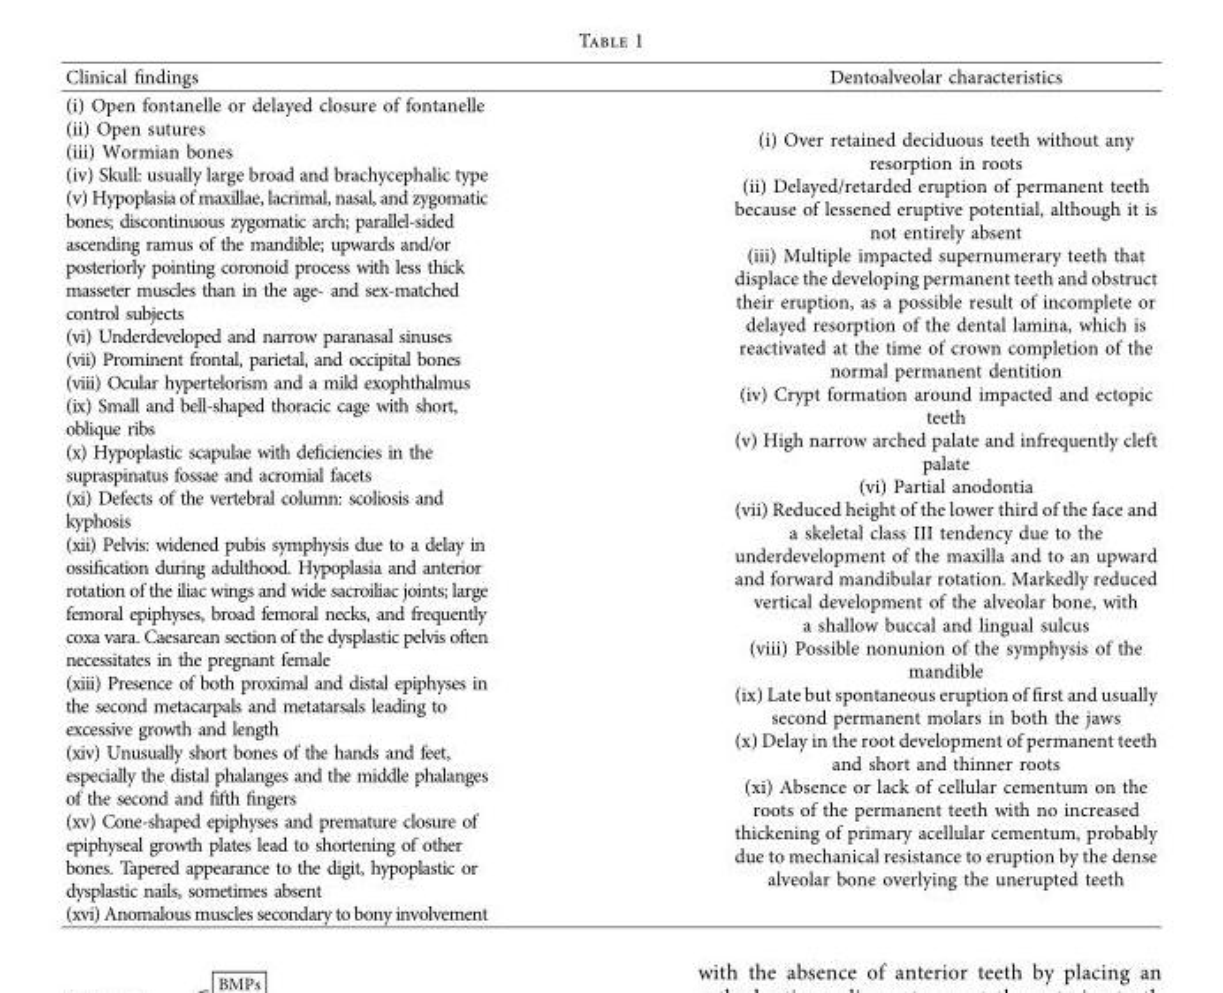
<table><thead><tr><td>Clinical findings</td><td>Dentoalveolar characteristics</td></tr></thead><tbody><tr><td>(i) Open fontanelle or delayed closure of fontanelle (ii) Open sutures (iii) Wormian bones (iv) Skull: usually large broad and brachycephalic type (v) Hypoplasia of maxillae, lacrimal, nasal, and zygomatic bones; discontinuous zygomatic arch; parallel-sided ascending ramus of the mandible; upwards and/or posteriorly pointing coronoid process with less thick masseter muscles than in the age- and sex-matched control subjects (vi) Underdeveloped and narrow paranasal sinuses (vii) Prominent frontal, parietal, and occipital bones (viii) Ocular hypertelorism and a mild exophthalmus (ix) Small and bell-shaped thoracic cage with short, oblique ribs (x) Hypoplastic scapulae with deficiencies in the supraspinatus fossae and acromial facets (xi) Defects of the vertebral column: scoliosis and kyphosis (xii) Pelvis: widened pubis symphysis due to a delay in ossification during adulthood. Hypoplasia and anterior rotation of the iliac wings and wide sacroiliac joints; large femoral epiphyses, broad femoral necks, and frequently coxa vara. Caesarean section of the dysplastic pelvis often necessitates in the pregnant female (xiii) Presence of both proximal and distal epiphyses in the second metacarpals and metatarsals leading to excessive growth and length (xiv) Unusually short bones of the hands and feet, especially the distal phalanges and the middle phalanges of the second and fifth fingers (xv) Cone-shaped epiphyses and premature closure of epiphyseal growth plates lead to shortening of other bones. Tapered appearance to the digit, hypoplastic or dysplastic nails, sometimes absent (xvi) Anomalous muscles secondary to bony involvement</td><td>(i) Over retained deciduous teeth without any resorption in roots (ii) Delayed/retarded eruption of permanent teeth because of lessened eruptive potential, although it is not entirely absent (iii) Multiple impacted supernumerary teeth that displace the developing permanent teeth and obstruct their eruption, as a possible result of incomplete or delayed resorption of the dental lamina, which is reactivated at the time of crown completion of the normal permanent dentition (iv) Crypt formation around impacted and ectopic teeth (v) High narrow arched palate and infrequently cleft palate (vi) Partial anodontia (vii) Reduced height of the lower third of the face and a skeletal class III tendency due to the underdevelopment of the maxilla and to an upward and forward mandibular rotation. Markedly reduced vertical development of the alveolar bone, with a shallow buccal and lingual sulcus (viii) Possible nonunion of the symphysis of the mandible (ix) Late but spontaneous eruption of first and usually second permanent molars in both the jaws (x) Delay in the root development of permanent teeth and short and thinner roots (xi) Absence or lack of cellular cementum on the roots of the permanent teeth with no increased thickening of primary acellular cementum, probably due to mechanical resistance to eruption by the dense alveolar bone overlying the unerupted teeth</td></tr></tbody></table>